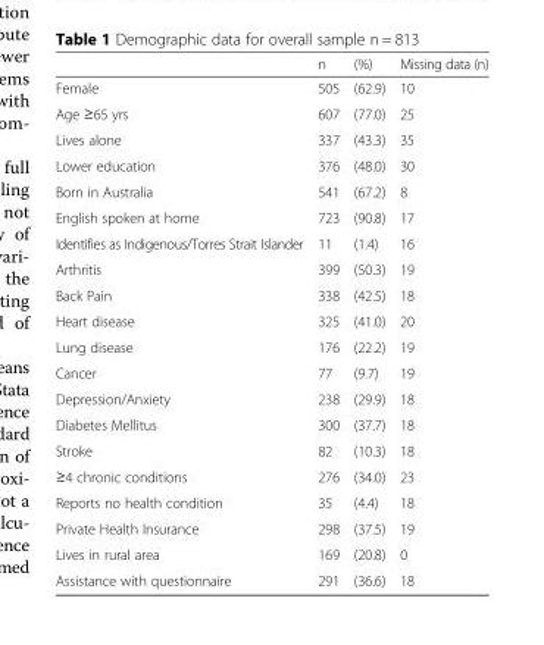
<table><thead><tr><td></td><td>n</td><td>(%)</td><td>Missing data (n)</td></tr></thead><tbody><tr><td>Female</td><td>505</td><td>(62.9)</td><td>10</td></tr><tr><td>Age ≥65 yrs</td><td>607</td><td>(77.0)</td><td>25</td></tr><tr><td>Lives alone</td><td>337</td><td>(43.3)</td><td>35</td></tr><tr><td>Lower education</td><td>376</td><td>(48.0)</td><td>30</td></tr><tr><td>Born in Australia</td><td>541</td><td>(67.2)</td><td>8</td></tr><tr><td>English spoken at home</td><td>723</td><td>(90.8)</td><td>17</td></tr><tr><td>Identifies as Indigenous/Torres Strait Islander</td><td>11</td><td>(1.4)</td><td>16</td></tr><tr><td>Arthritis</td><td>399</td><td>(50.3)</td><td>19</td></tr><tr><td>Back Pain</td><td>338</td><td>(42.5)</td><td>18</td></tr><tr><td>Heart disease</td><td>325</td><td>(41.0)</td><td>20</td></tr><tr><td>Lung disease</td><td>176</td><td>(22.2)</td><td>19</td></tr><tr><td>Cancer</td><td>77</td><td>(9.7)</td><td>19</td></tr><tr><td>Depression/Anxiety</td><td>238</td><td>(29.9)</td><td>18</td></tr><tr><td>Diabetes Mellitus</td><td>300</td><td>(37.7)</td><td>18</td></tr><tr><td>Stroke</td><td>82</td><td>(10.3)</td><td>18</td></tr><tr><td>≥4 chronic conditions</td><td>276</td><td>(34.0)</td><td>23</td></tr><tr><td>Reports no health condition</td><td>35</td><td>(4.4)</td><td>18</td></tr><tr><td>Private Health Insurance</td><td>298</td><td>(37.5)</td><td>19</td></tr><tr><td>Lives in rural area</td><td>169</td><td>(20.8)</td><td>0</td></tr><tr><td>Assistance with questionnaire</td><td>291</td><td>(36.6)</td><td>18</td></tr></tbody></table>